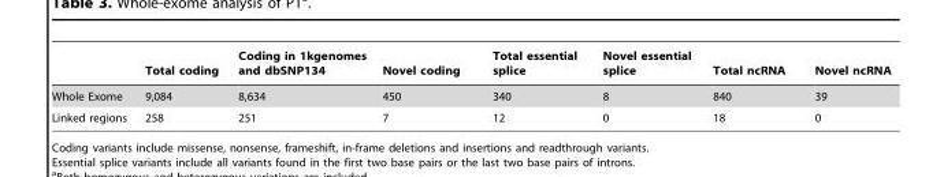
<table><thead><tr><td></td><td>Total coding</td><td>Coding in 1kgenomes and dbSNP134</td><td>Novel coding</td><td>Total essential splice</td><td>Novel essential splice</td><td>Total ncRNA</td><td>Novel ncRNA</td></tr></thead><tbody><tr><td>Whole Exome</td><td>9,084</td><td>8,634</td><td>450</td><td>340</td><td>8</td><td>840</td><td>39</td></tr><tr><td>Linked regions</td><td>258</td><td>251</td><td>7</td><td>12</td><td>0</td><td>18</td><td>0</td></tr></tbody></table>